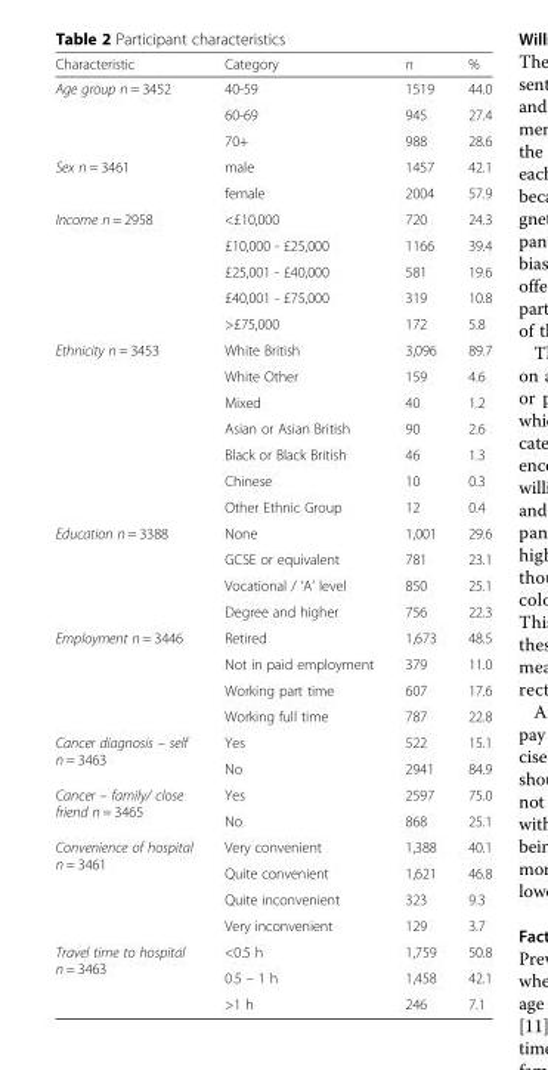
<table><thead><tr><td>Characteristic</td><td>Category</td><td>n</td><td>%</td></tr></thead><tbody><tr><td rowspan="3">Age group n = 3452</td><td>40-59</td><td>1519</td><td>44.0</td></tr><tr><td>60-69</td><td>945</td><td>27.4</td></tr><tr><td>70+</td><td>988</td><td>28.6</td></tr><tr><td rowspan="2">Sex n = 3461</td><td>male</td><td>1457</td><td>42.1</td></tr><tr><td>female</td><td>2004</td><td>57.9</td></tr><tr><td rowspan="5">Income n = 2958</td><td>&lt;£10,000</td><td>720</td><td>24.3</td></tr><tr><td>£10,000 - £25,000</td><td>1166</td><td>39.4</td></tr><tr><td>£25,001 - £40,000</td><td>581</td><td>19.6</td></tr><tr><td>£40,001 - £75,000</td><td>319</td><td>10.8</td></tr><tr><td>&gt;£75,000</td><td>172</td><td>5.8</td></tr><tr><td rowspan="7">Ethnicity n = 3453</td><td>White British</td><td>3,096</td><td>89.7</td></tr><tr><td>White Other</td><td>159</td><td>4.6</td></tr><tr><td>Mixed</td><td>40</td><td>1.2</td></tr><tr><td>Asian or Asian British</td><td>90</td><td>2.6</td></tr><tr><td>Black or Black British</td><td>46</td><td>1.3</td></tr><tr><td>Chinese</td><td>10</td><td>0.3</td></tr><tr><td>Other Ethnic Group</td><td>12</td><td>0.4</td></tr><tr><td rowspan="4">Education n = 3388</td><td>None</td><td>1,001</td><td>29.6</td></tr><tr><td>GCSE or equivalent</td><td>781</td><td>23.1</td></tr><tr><td>Vocational / ‘A’ level</td><td>850</td><td>25.1</td></tr><tr><td>Degree and higher</td><td>756</td><td>22.3</td></tr><tr><td rowspan="4">Employment n = 3446</td><td>Retired</td><td>1,673</td><td>48.5</td></tr><tr><td>Not in paid employment</td><td>379</td><td>11.0</td></tr><tr><td>Working part time</td><td>607</td><td>17.6</td></tr><tr><td>Working full time</td><td>787</td><td>22.8</td></tr><tr><td rowspan="2">Cancer diagnosis – self n = 3463</td><td>Yes</td><td>522</td><td>15.1</td></tr><tr><td>No</td><td>2941</td><td>84.9</td></tr><tr><td rowspan="2">Cancer – family/ close friend n = 3465</td><td>Yes</td><td>2597</td><td>75.0</td></tr><tr><td>No</td><td>868</td><td>25.1</td></tr><tr><td rowspan="4">Convenience of hospital n = 3461</td><td>Very convenient</td><td>1,388</td><td>40.1</td></tr><tr><td>Quite convenient</td><td>1,621</td><td>46.8</td></tr><tr><td>Quite inconvenient</td><td>323</td><td>9.3</td></tr><tr><td>Very inconvenient</td><td>129</td><td>3.7</td></tr><tr><td rowspan="3">Travel time to hospital n = 3463</td><td>&lt;0.5 h</td><td>1,759</td><td>50.8</td></tr><tr><td>0.5 – 1 h</td><td>1,458</td><td>42.1</td></tr><tr><td>&gt;1 h</td><td>246</td><td>7.1</td></tr></tbody></table>